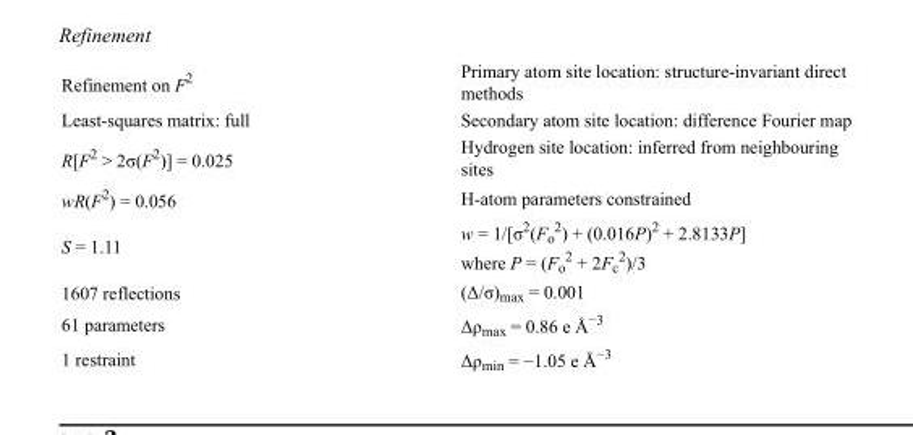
<table><tbody><tr><td>Refinement on F<sup>2</sup></td><td>Primary atom site location: structure-invariant direct methods</td></tr><tr><td>Least-squares matrix: full</td><td>Secondary atom site location: difference Fourier map</td></tr><tr><td>R[F<sup>2</sup> &gt; 2σ(F<sup>2</sup>)] = 0.025</td><td>Hydrogen site location: inferred from neighbouring sites</td></tr><tr><td>wR(F<sup>2</sup>) = 0.056</td><td>H-atom parameters constrained</td></tr><tr><td>S = 1.11</td><td>w = 1/[σ<sup>2</sup>(F<sub>o</sub> <sup>2</sup>) + (0.016P)<sup>2</sup> + 2.8133P] where P = (F<sub>o</sub> <sup>2</sup> + 2F<sub>c</sub> <sup>2</sup>)/3</td></tr><tr><td>1607 reflections</td><td>(Δ/σ)<sub>max</sub> = 0.001</td></tr><tr><td>61 parameters</td><td>Δρ<sub>max</sub> = 0.86 e Å<sup>−3</sup></td></tr><tr><td>1 restraint</td><td>Δρ<sub>min</sub> = −1.05 e Å<sup>−3</sup></td></tr></tbody></table>